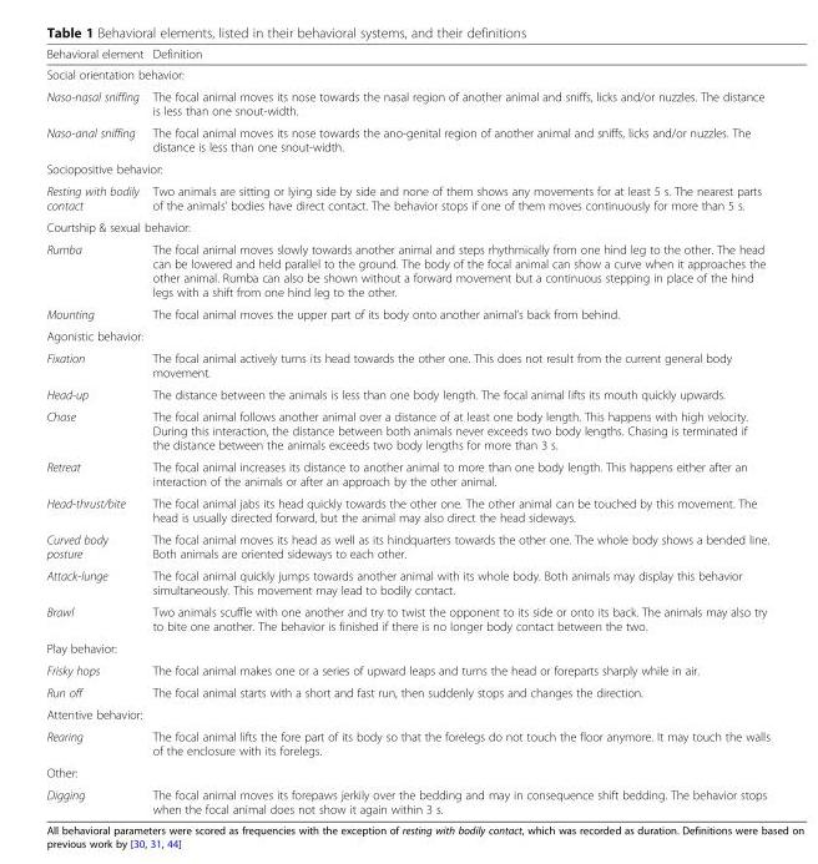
<table><thead><tr><td>Behavioral element</td><td>Definition</td></tr></thead><tbody><tr><td colspan="2">Social orientation behavior:</td></tr><tr><td>Naso-nasal sniffing</td><td>The focal animal moves its nose towards the nasal region of another animal and sniffs, licks and/or nuzzles. The distance is less than one snout-width.</td></tr><tr><td>Naso-anal sniffing</td><td>The focal animal moves its nose towards the ano-genital region of another animal and sniffs, licks and/or nuzzles. The distance is less than one snout-width.</td></tr><tr><td colspan="2">Sociopositive behavior:</td></tr><tr><td>Resting with bodily contact</td><td>Two animals are sitting or lying side by side and none of them shows any movements for at least 5 s. The nearest parts of the animals’ bodies have direct contact. The behavior stops if one of them moves continuously for more than 5 s.</td></tr><tr><td colspan="2">Courtship &amp; sexual behavior:</td></tr><tr><td>Rumba</td><td>The focal animal moves slowly towards another animal and steps rhythmically from one hind leg to the other. The head can be lowered and held parallel to the ground. The body of the focal animal can show a curve when it approaches the other animal. Rumba can also be shown without a forward movement but a continuous stepping in place of the hind legs with a shift from one hind leg to the other.</td></tr><tr><td>Mounting</td><td>The focal animal moves the upper part of its body onto another animal’s back from behind.</td></tr><tr><td colspan="2">Agonistic behavior:</td></tr><tr><td>Fixation</td><td>The focal animal actively turns its head towards the other one. This does not result from the current general body movement.</td></tr><tr><td>Head-up</td><td>The distance between the animals is less than one body length. The focal animal lifts its mouth quickly upwards.</td></tr><tr><td>Chase</td><td>The focal animal follows another animal over a distance of at least one body length. This happens with high velocity. During this interaction, the distance between both animals never exceeds two body lengths. Chasing is terminated if the distance between the animals exceeds two body lengths for more than 3 s.</td></tr><tr><td>Retreat</td><td>The focal animal increases its distance to another animal to more than one body length. This happens either after an interaction of the animals or after an approach by the other animal.</td></tr><tr><td>Head-thrust/bite</td><td>The focal animal jabs its head quickly towards the other one. The other animal can be touched by this movement. The head is usually directed forward, but the animal may also direct the head sideways.</td></tr><tr><td>Curved body posture</td><td>The focal animal moves its head as well as its hindquarters towards the other one. The whole body shows a bended line. Both animals are oriented sideways to each other.</td></tr><tr><td>Attack-lunge</td><td>The focal animal quickly jumps towards another animal with its whole body. Both animals may display this behavior simultaneously. This movement may lead to bodily contact.</td></tr><tr><td>Brawl</td><td>Two animals scuffle with one another and try to twist the opponent to its side or onto its back. The animals may also try to bite one another. The behavior is finished if there is no longer body contact between the two.</td></tr><tr><td colspan="2">Play behavior:</td></tr><tr><td>Frisky hops</td><td>The focal animal makes one or a series of upward leaps and turns the head or foreparts sharply while in air.</td></tr><tr><td>Run off</td><td>The focal animal starts with a short and fast run, then suddenly stops and changes the direction.</td></tr><tr><td colspan="2">Attentive behavior:</td></tr><tr><td>Rearing</td><td>The focal animal lifts the fore part of its body so that the forelegs do not touch the floor anymore. It may touch the walls of the enclosure with its forelegs.</td></tr><tr><td colspan="2">Other:</td></tr><tr><td>Digging</td><td>The focal animal moves its forepaws jerkily over the bedding and may in consequence shift bedding. The behavior stops when the focal animal does not show it again within 3 s.</td></tr></tbody></table>